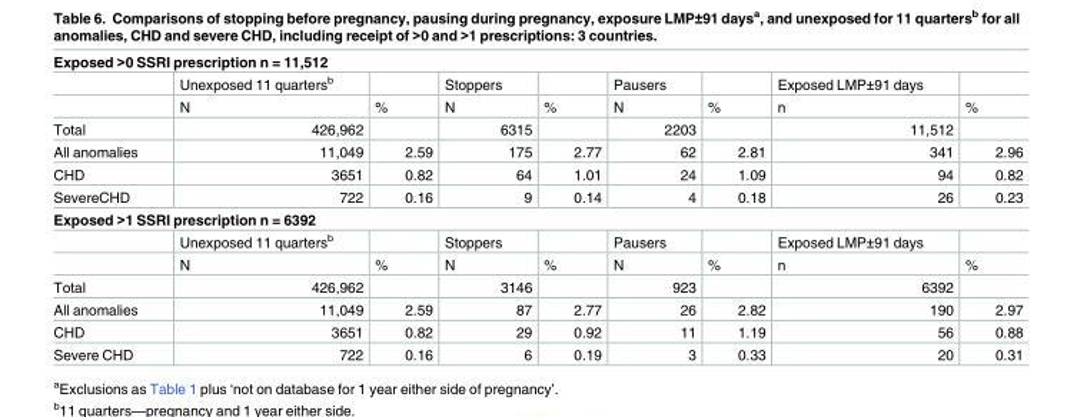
<table><tbody><tr><td colspan="9">Exposed &gt;0 SSRI prescription n = 11,512</td></tr><tr><td></td><td>Unexposed 11 quarters<sup>b</sup></td><td></td><td>Stoppers</td><td></td><td>Pausers</td><td></td><td>Exposed LMP±91 days</td><td></td></tr><tr><td></td><td>N</td><td>%</td><td>N</td><td>%</td><td>N</td><td>%</td><td>n</td><td>%</td></tr><tr><td>Total</td><td>426,962</td><td></td><td>6315</td><td></td><td>2203</td><td></td><td>11,512</td><td></td></tr><tr><td>All anomalies</td><td>11,049</td><td>2.59</td><td>175</td><td>2.77</td><td>62</td><td>2.81</td><td>341</td><td>2.96</td></tr><tr><td>CHD</td><td>3651</td><td>0.82</td><td>64</td><td>1.01</td><td>24</td><td>1.09</td><td>94</td><td>0.82</td></tr><tr><td>SevereCHD</td><td>722</td><td>0.16</td><td>9</td><td>0.14</td><td>4</td><td>0.18</td><td>26</td><td>0.23</td></tr><tr><td colspan="9">Exposed &gt;1 SSRI prescription n = 6392</td></tr><tr><td></td><td>Unexposed 11 quarters<sup>b</sup></td><td></td><td>Stoppers</td><td></td><td>Pausers</td><td></td><td>Exposed LMP±91 days</td><td></td></tr><tr><td></td><td>N</td><td>%</td><td>N</td><td>%</td><td>N</td><td>%</td><td>n</td><td>%</td></tr><tr><td>Total</td><td>426,962</td><td></td><td>3146</td><td></td><td>923</td><td></td><td>6392</td><td></td></tr><tr><td>All anomalies</td><td>11,049</td><td>2.59</td><td>87</td><td>2.77</td><td>26</td><td>2.82</td><td>190</td><td>2.97</td></tr><tr><td>CHD</td><td>3651</td><td>0.82</td><td>29</td><td>0.92</td><td>11</td><td>1.19</td><td>56</td><td>0.88</td></tr><tr><td>Severe CHD</td><td>722</td><td>0.16</td><td>6</td><td>0.19</td><td>3</td><td>0.33</td><td>20</td><td>0.31</td></tr></tbody></table>